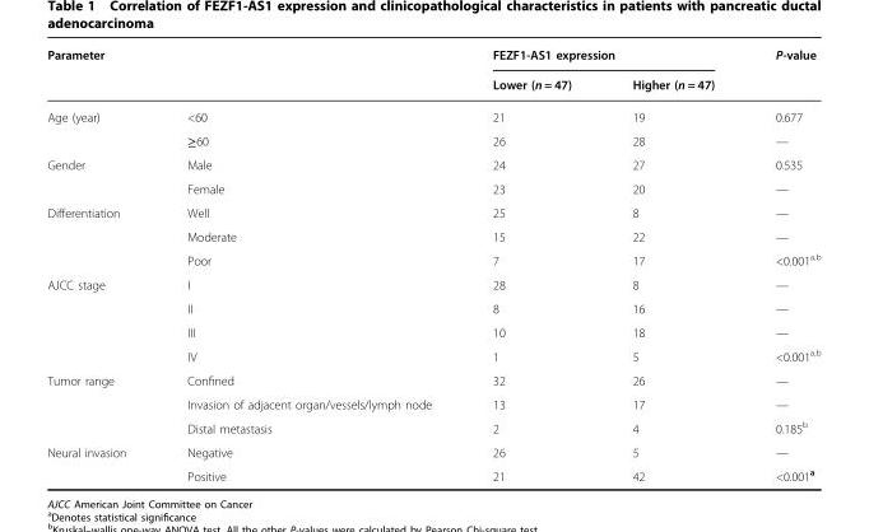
<table><thead><tr><td rowspan="2">Parameter</td><td rowspan="2"></td><td colspan="2">FEZF1-AS1 expression</td><td rowspan="2">P-value</td></tr><tr><td>Lower (n = 47)</td><td>Higher (n = 47)</td></tr></thead><tbody><tr><td rowspan="2">Age (year)</td><td>&lt;60</td><td>21</td><td>19</td><td>0.677</td></tr><tr><td>≥60</td><td>26</td><td>28</td><td>—</td></tr><tr><td rowspan="2">Gender</td><td>Male</td><td>24</td><td>27</td><td>0.535</td></tr><tr><td>Female</td><td>23</td><td>20</td><td>—</td></tr><tr><td rowspan="3">Differentiation</td><td>Well</td><td>25</td><td>8</td><td>—</td></tr><tr><td>Moderate</td><td>15</td><td>22</td><td>—</td></tr><tr><td>Poor</td><td>7</td><td>17</td><td>&lt;0.001<sup>a,b</sup></td></tr><tr><td rowspan="4">AJCC stage</td><td>I</td><td>28</td><td>8</td><td>—</td></tr><tr><td>II</td><td>8</td><td>16</td><td>—</td></tr><tr><td>III</td><td>10</td><td>18</td><td>—</td></tr><tr><td>IV</td><td>1</td><td>5</td><td>&lt;0.001<sup>a,b</sup></td></tr><tr><td rowspan="3">Tumor range</td><td>Confined</td><td>32</td><td>26</td><td>—</td></tr><tr><td>Invasion of adjacent organ/vessels/lymph node</td><td>13</td><td>17</td><td>—</td></tr><tr><td>Distal metastasis</td><td>2</td><td>4</td><td>0.185<sup>b</sup></td></tr><tr><td rowspan="2">Neural invasion</td><td>Negative</td><td>26</td><td>5</td><td>—</td></tr><tr><td>Positive</td><td>21</td><td>42</td><td>&lt;0.001<sup>a</sup></td></tr></tbody></table>